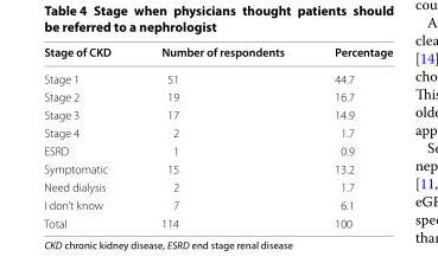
<table><thead><tr><td>Stage of CKD</td><td>Number of respondents</td><td>Percentage</td></tr></thead><tbody><tr><td>Stage 1</td><td>51</td><td>44.7</td></tr><tr><td>Stage 2</td><td>19</td><td>16.7</td></tr><tr><td>Stage 3</td><td>17</td><td>14.9</td></tr><tr><td>Stage 4</td><td>2</td><td>1.7</td></tr><tr><td>ESRD</td><td>1</td><td>0.9</td></tr><tr><td>Symptomatic</td><td>15</td><td>13.2</td></tr><tr><td>Need dialysis</td><td>2</td><td>1.7</td></tr><tr><td>I don’t know</td><td>7</td><td>6.1</td></tr><tr><td>Total</td><td>114</td><td>100</td></tr></tbody></table>